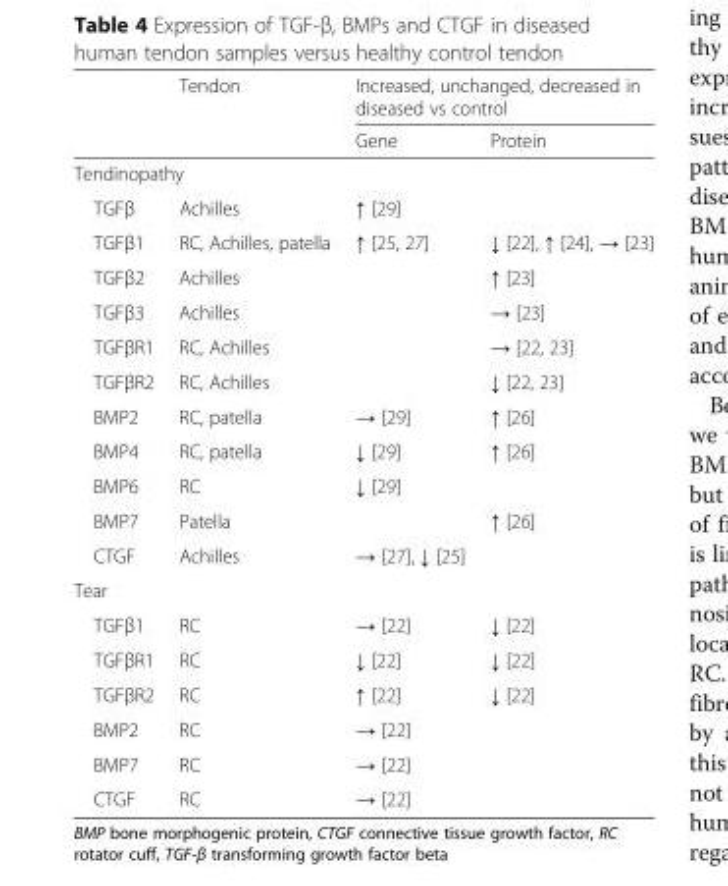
<table><thead><tr><td rowspan="2"></td><td rowspan="2">Tendon</td><td colspan="2">Increased, unchanged, decreased in diseased vs control</td></tr><tr><td>Gene</td><td>Protein</td></tr></thead><tbody><tr><td colspan="4">Tendinopathy</td></tr><tr><td>TGFβ</td><td>Achilles</td><td>↑ [29]</td><td></td></tr><tr><td>TGFβ1</td><td>RC, Achilles, patella</td><td>↑ [25, 27]</td><td>↓ [22], ↑ [24], → [23]</td></tr><tr><td>TGFβ2</td><td>Achilles</td><td></td><td>↑ [23]</td></tr><tr><td>TGFβ3</td><td>Achilles</td><td></td><td>→ [23]</td></tr><tr><td>TGFβR1</td><td>RC, Achilles</td><td></td><td>→ [22, 23]</td></tr><tr><td>TGFβR2</td><td>RC, Achilles</td><td></td><td>↓ [22, 23]</td></tr><tr><td>BMP2</td><td>RC, patella</td><td>→ [29]</td><td>↑ [26]</td></tr><tr><td>BMP4</td><td>RC, patella</td><td>↓ [29]</td><td>↑ [26]</td></tr><tr><td>BMP6</td><td>RC</td><td>↓ [29]</td><td></td></tr><tr><td>BMP7</td><td>Patella</td><td></td><td>↑ [26]</td></tr><tr><td>CTGF</td><td>Achilles</td><td>→ [27], ↓ [25]</td><td></td></tr><tr><td colspan="4">Tear</td></tr><tr><td>TGFβ1</td><td>RC</td><td>→ [22]</td><td>↓ [22]</td></tr><tr><td>TGFβR1</td><td>RC</td><td>↓ [22]</td><td>↓ [22]</td></tr><tr><td>TGFβR2</td><td>RC</td><td>↑ [22]</td><td>↓ [22]</td></tr><tr><td>BMP2</td><td>RC</td><td>→ [22]</td><td></td></tr><tr><td>BMP7</td><td>RC</td><td>→ [22]</td><td></td></tr><tr><td>CTGF</td><td>RC</td><td>→ [22]</td><td></td></tr></tbody></table>